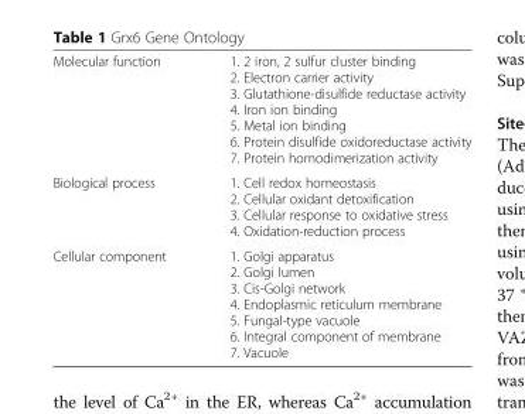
<table><tbody><tr><td>Molecular function</td><td>1. 2 iron, 2 sulfur cluster binding 2. Electron carrier activity 3. Glutathione-disulfide reductase activity 4. Iron ion binding 5. Metal ion binding 6. Protein disulfide oxidoreductase activity 7. Protein homodimerization activity</td></tr><tr><td>Biological process</td><td>1. Cell redox homeostasis 2. Cellular oxidant detoxification 3. Cellular response to oxidative stress 4. Oxidation-reduction process</td></tr><tr><td>Cellular component</td><td>1. Golgi apparatus 2. Golgi lumen 3. Cis-Golgi network 4. Endoplasmic reticulum membrane 5. Fungal-type vacuole 6. Integral component of membrane 7. Vacuole</td></tr></tbody></table>